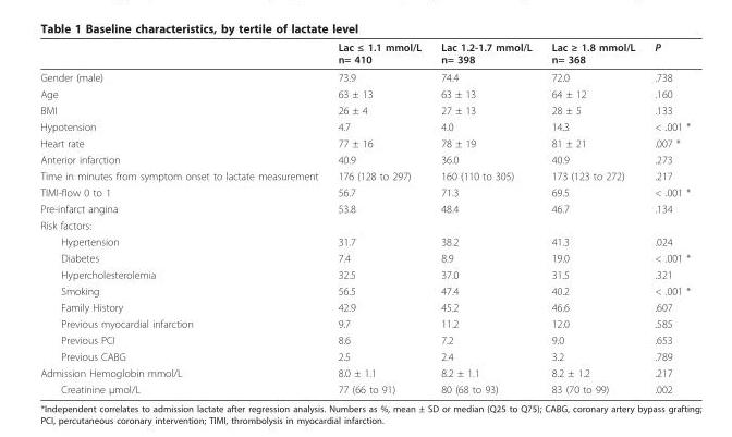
<table><thead><tr><td></td><td>Lac ≤ 1.1 mmol/L n= 410</td><td>Lac 1.2-1.7 mmol/L n= 398</td><td>Lac ≥ 1.8 mmol/L n= 368</td><td>P</td></tr></thead><tbody><tr><td>Gender (male)</td><td>73.9</td><td>74.4</td><td>72.0</td><td>.738</td></tr><tr><td>Age</td><td>63 ± 13</td><td>63 ± 13</td><td>64 ± 12</td><td>.160</td></tr><tr><td>BMI</td><td>26 ± 4</td><td>27 ± 13</td><td>28 ± 5</td><td>.133</td></tr><tr><td>Hypotension</td><td>4.7</td><td>4.0</td><td>14.3</td><td>&lt; .001 *</td></tr><tr><td>Heart rate</td><td>77 ± 16</td><td>78 ± 19</td><td>81 ± 21</td><td>.007 *</td></tr><tr><td>Anterior infarction</td><td>40.9</td><td>36.0</td><td>40.9</td><td>.273</td></tr><tr><td>Time in minutes from symptom onset to lactate measurement</td><td>176 (128 to 297)</td><td>160 (110 to 305)</td><td>173 (123 to 272)</td><td>.217</td></tr><tr><td>TIMI-flow 0 to 1</td><td>56.7</td><td>71.3</td><td>69.5</td><td>&lt; .001 *</td></tr><tr><td>Pre-infarct angina</td><td>53.8</td><td>48.4</td><td>46.7</td><td>.134</td></tr><tr><td colspan="5">Risk factors:</td></tr><tr><td>Hypertension</td><td>31.7</td><td>38.2</td><td>41.3</td><td>.024</td></tr><tr><td>Diabetes</td><td>7.4</td><td>8.9</td><td>19.0</td><td>&lt; .001 *</td></tr><tr><td>Hypercholesterolemia</td><td>32.5</td><td>37.0</td><td>31.5</td><td>.321</td></tr><tr><td>Smoking</td><td>56.5</td><td>47.4</td><td>40.2</td><td>&lt; .001 *</td></tr><tr><td>Family History</td><td>42.9</td><td>45.2</td><td>46.6</td><td>.607</td></tr><tr><td>Previous myocardial infarction</td><td>9.7</td><td>11.2</td><td>12.0</td><td>.585</td></tr><tr><td>Previous PCI</td><td>8.6</td><td>7.2</td><td>9.0</td><td>.653</td></tr><tr><td>Previous CABG</td><td>2.5</td><td>2.4</td><td>3.2</td><td>.789</td></tr><tr><td>Admission Hemoglobin mmol/L</td><td>8.0 ± 1.1</td><td>8.2 ± 1.1</td><td>8.2 ± 1.2</td><td>.217</td></tr><tr><td>Creatinine μmol/L</td><td>77 (66 to 91)</td><td>80 (68 to 93)</td><td>83 (70 to 99)</td><td>.002</td></tr></tbody></table>